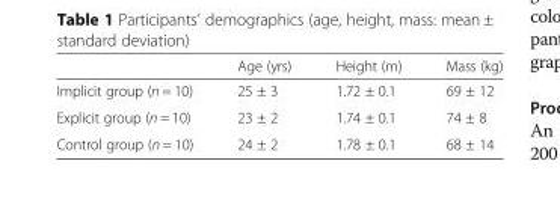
<table><thead><tr><td></td><td>Age (yrs)</td><td>Height (m)</td><td>Mass (kg)</td></tr></thead><tbody><tr><td>Implicit group (n = 10)</td><td>25 ± 3</td><td>1.72 ± 0.1</td><td>69 ± 12</td></tr><tr><td>Explicit group (n = 10)</td><td>23 ± 2</td><td>1.74 ± 0.1</td><td>74 ± 8</td></tr><tr><td>Control group (n = 10)</td><td>24 ± 2</td><td>1.78 ± 0.1</td><td>68 ± 14</td></tr></tbody></table>